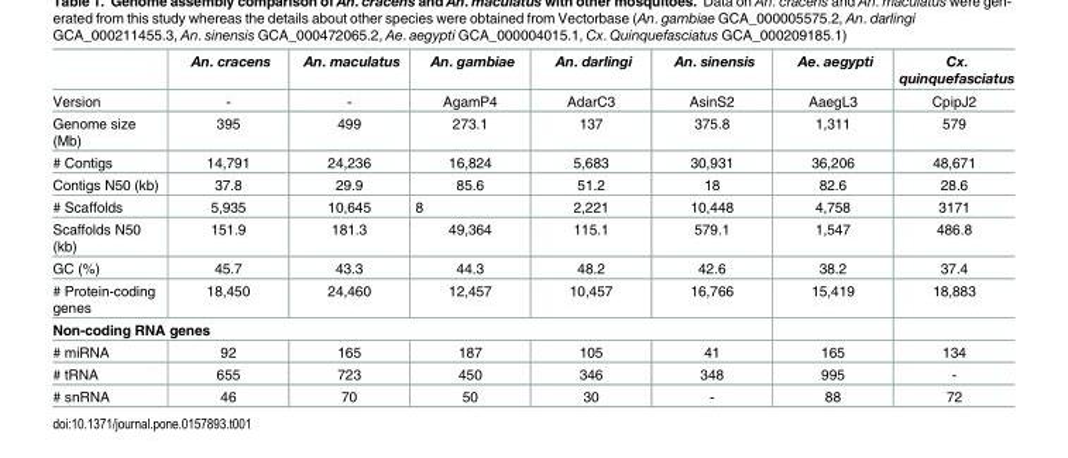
<table><thead><tr><td></td><td>An. cracens</td><td>An. maculatus</td><td>An. gambiae</td><td>An. darlingi</td><td>An. sinensis</td><td>Ae. aegypti</td><td>Cx. quinquefasciatus</td></tr></thead><tbody><tr><td>Version</td><td>-</td><td>-</td><td>AgamP4</td><td>AdarC3</td><td>AsinS2</td><td>AaegL3</td><td>CpipJ2</td></tr><tr><td>Genome size (Mb)</td><td>395</td><td>499</td><td>273.1</td><td>137</td><td>375.8</td><td>1,311</td><td>579</td></tr><tr><td># Contigs</td><td>14,791</td><td>24,236</td><td>16,824</td><td>5,683</td><td>30,931</td><td>36,206</td><td>48,671</td></tr><tr><td>Contigs N50 (kb)</td><td>37.8</td><td>29.9</td><td>85.6</td><td>51.2</td><td>18</td><td>82.6</td><td>28.6</td></tr><tr><td># Scaffolds</td><td>5,935</td><td>10,645</td><td>8</td><td>2,221</td><td>10,448</td><td>4,758</td><td>3171</td></tr><tr><td>Scaffolds N50 (kb)</td><td>151.9</td><td>181.3</td><td>49,364</td><td>115.1</td><td>579.1</td><td>1,547</td><td>486.8</td></tr><tr><td>GC (%)</td><td>45.7</td><td>43.3</td><td>44.3</td><td>48.2</td><td>42.6</td><td>38.2</td><td>37.4</td></tr><tr><td># Protein-coding genes</td><td>18,450</td><td>24,460</td><td>12,457</td><td>10,457</td><td>16,766</td><td>15,419</td><td>18,883</td></tr><tr><td colspan="8">Non-coding RNA genes</td></tr><tr><td># miRNA</td><td>92</td><td>165</td><td>187</td><td>105</td><td>41</td><td>165</td><td>134</td></tr><tr><td># tRNA</td><td>655</td><td>723</td><td>450</td><td>346</td><td>348</td><td>995</td><td>-</td></tr><tr><td># snRNA</td><td>46</td><td>70</td><td>50</td><td>30</td><td>-</td><td>88</td><td>72</td></tr></tbody></table>